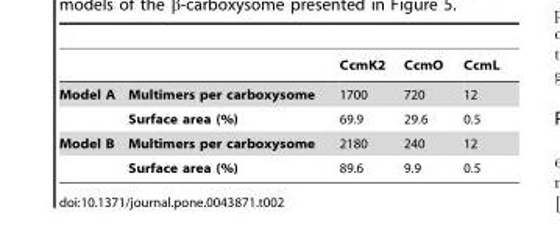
<table><thead><tr><td></td><td></td><td>CcmK2</td><td>CcmO</td><td>CcmL</td></tr></thead><tbody><tr><td rowspan="2">Model A</td><td>Multimers per carboxysome</td><td>1700</td><td>720</td><td>12</td></tr><tr><td>Surface area (%)</td><td>69.9</td><td>29.6</td><td>0.5</td></tr><tr><td rowspan="2">Model B</td><td>Multimers per carboxysome</td><td>2180</td><td>240</td><td>12</td></tr><tr><td>Surface area (%)</td><td>89.6</td><td>9.9</td><td>0.5</td></tr></tbody></table>